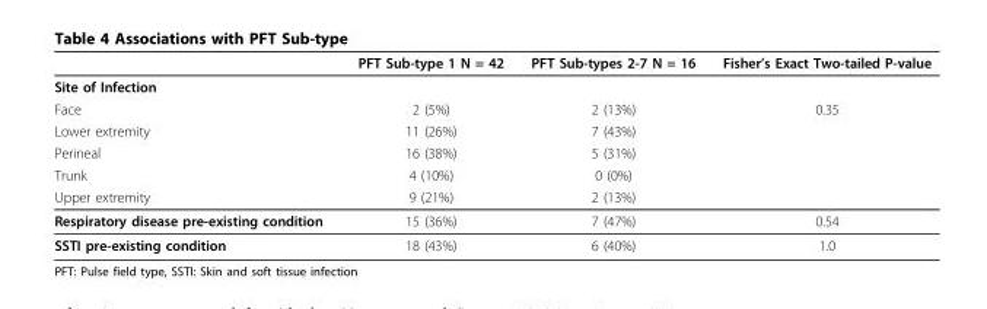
<table><thead><tr><td></td><td>PFT Sub-type 1 N = 42</td><td>PFT Sub-types 2-7 N = 16</td><td>Fisher’s Exact Two-tailed P-value</td></tr></thead><tbody><tr><td colspan="4">Site of Infection</td></tr><tr><td>Face</td><td>2 (5%)</td><td>2 (13%)</td><td>0.35</td></tr><tr><td>Lower extremity</td><td>11 (26%)</td><td>7 (43%)</td><td></td></tr><tr><td>Perineal</td><td>16 (38%)</td><td>5 (31%)</td><td></td></tr><tr><td>Trunk</td><td>4 (10%)</td><td>0 (0%)</td><td></td></tr><tr><td>Upper extremity</td><td>9 (21%)</td><td>2 (13%)</td><td></td></tr><tr><td>Respiratory disease pre-existing condition</td><td>15 (36%)</td><td>7 (47%)</td><td>0.54</td></tr><tr><td>SSTI pre-existing condition</td><td>18 (43%)</td><td>6 (40%)</td><td>1.0</td></tr></tbody></table>